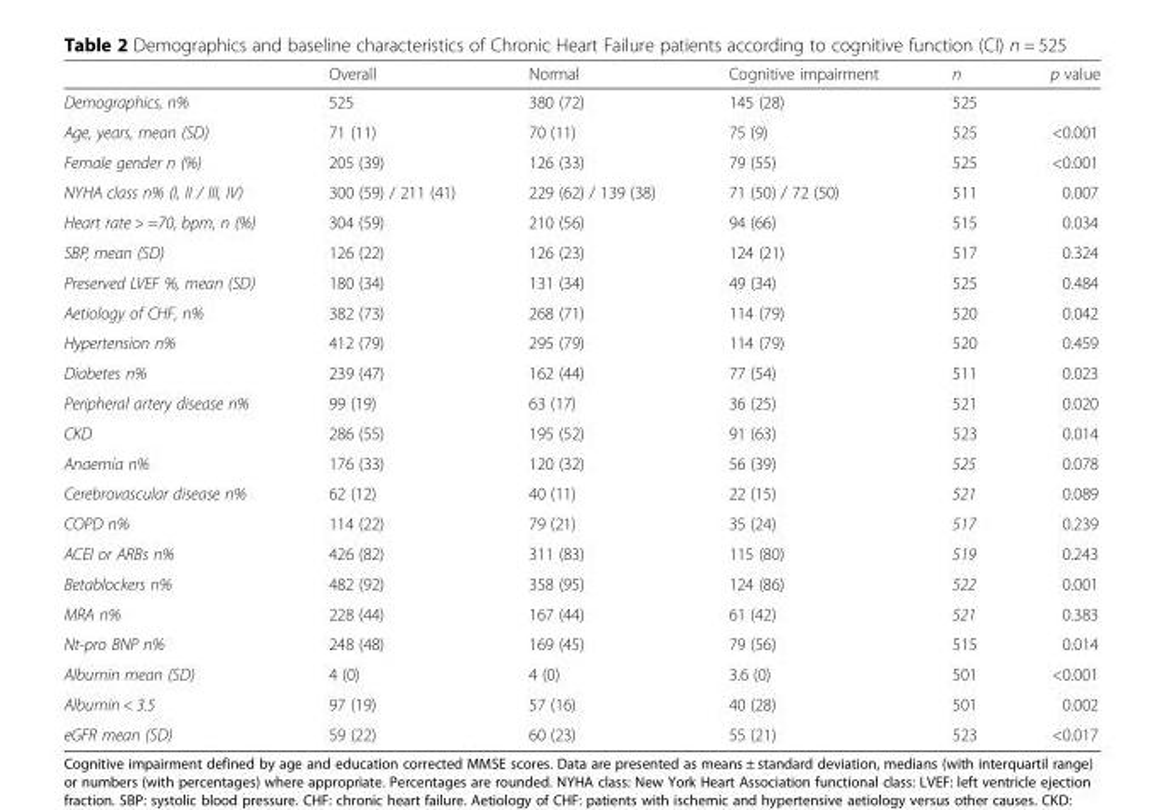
<table><thead><tr><td></td><td>Overall</td><td>Normal</td><td>Cognitive impairment</td><td>n</td><td>p value</td></tr></thead><tbody><tr><td>Demographics, n%</td><td>525</td><td>380 (72)</td><td>145 (28)</td><td>525</td><td></td></tr><tr><td>Age, years, mean (SD)</td><td>71 (11)</td><td>70 (11)</td><td>75 (9)</td><td>525</td><td>&lt;0.001</td></tr><tr><td>Female gender n (%)</td><td>205 (39)</td><td>126 (33)</td><td>79 (55)</td><td>525</td><td>&lt;0.001</td></tr><tr><td>NYHA class n% (I, II / III, IV)</td><td>300 (59) / 211 (41)</td><td>229 (62) / 139 (38)</td><td>71 (50) / 72 (50)</td><td>511</td><td>0.007</td></tr><tr><td>Heart rate &gt; =70, bpm, n (%)</td><td>304 (59)</td><td>210 (56)</td><td>94 (66)</td><td>515</td><td>0.034</td></tr><tr><td>SBP, mean (SD)</td><td>126 (22)</td><td>126 (23)</td><td>124 (21)</td><td>517</td><td>0.324</td></tr><tr><td>Preserved LVEF %, mean (SD)</td><td>180 (34)</td><td>131 (34)</td><td>49 (34)</td><td>525</td><td>0.484</td></tr><tr><td>Aetiology of CHF, n%</td><td>382 (73)</td><td>268 (71)</td><td>114 (79)</td><td>520</td><td>0.042</td></tr><tr><td>Hypertension n%</td><td>412 (79)</td><td>295 (79)</td><td>114 (79)</td><td>520</td><td>0.459</td></tr><tr><td>Diabetes n%</td><td>239 (47)</td><td>162 (44)</td><td>77 (54)</td><td>511</td><td>0.023</td></tr><tr><td>Peripheral artery disease n%</td><td>99 (19)</td><td>63 (17)</td><td>36 (25)</td><td>521</td><td>0.020</td></tr><tr><td>CKD</td><td>286 (55)</td><td>195 (52)</td><td>91 (63)</td><td>523</td><td>0.014</td></tr><tr><td>Anaemia n%</td><td>176 (33)</td><td>120 (32)</td><td>56 (39)</td><td>525</td><td>0.078</td></tr><tr><td>Cerebrovascular disease n%</td><td>62 (12)</td><td>40 (11)</td><td>22 (15)</td><td>521</td><td>0.089</td></tr><tr><td>COPD n%</td><td>114 (22)</td><td>79 (21)</td><td>35 (24)</td><td>517</td><td>0.239</td></tr><tr><td>ACEI or ARBs n%</td><td>426 (82)</td><td>311 (83)</td><td>115 (80)</td><td>519</td><td>0.243</td></tr><tr><td>Betablockers n%</td><td>482 (92)</td><td>358 (95)</td><td>124 (86)</td><td>522</td><td>0.001</td></tr><tr><td>MRA n%</td><td>228 (44)</td><td>167 (44)</td><td>61 (42)</td><td>521</td><td>0.383</td></tr><tr><td>Nt-pro BNP n%</td><td>248 (48)</td><td>169 (45)</td><td>79 (56)</td><td>515</td><td>0.014</td></tr><tr><td>Albumin mean (SD)</td><td>4 (0)</td><td>4 (0)</td><td>3.6 (0)</td><td>501</td><td>&lt;0.001</td></tr><tr><td>Albumin &lt; 3.5</td><td>97 (19)</td><td>57 (16)</td><td>40 (28)</td><td>501</td><td>0.002</td></tr><tr><td>eGFR mean (SD)</td><td>59 (22)</td><td>60 (23)</td><td>55 (21)</td><td>523</td><td>&lt;0.017</td></tr></tbody></table>